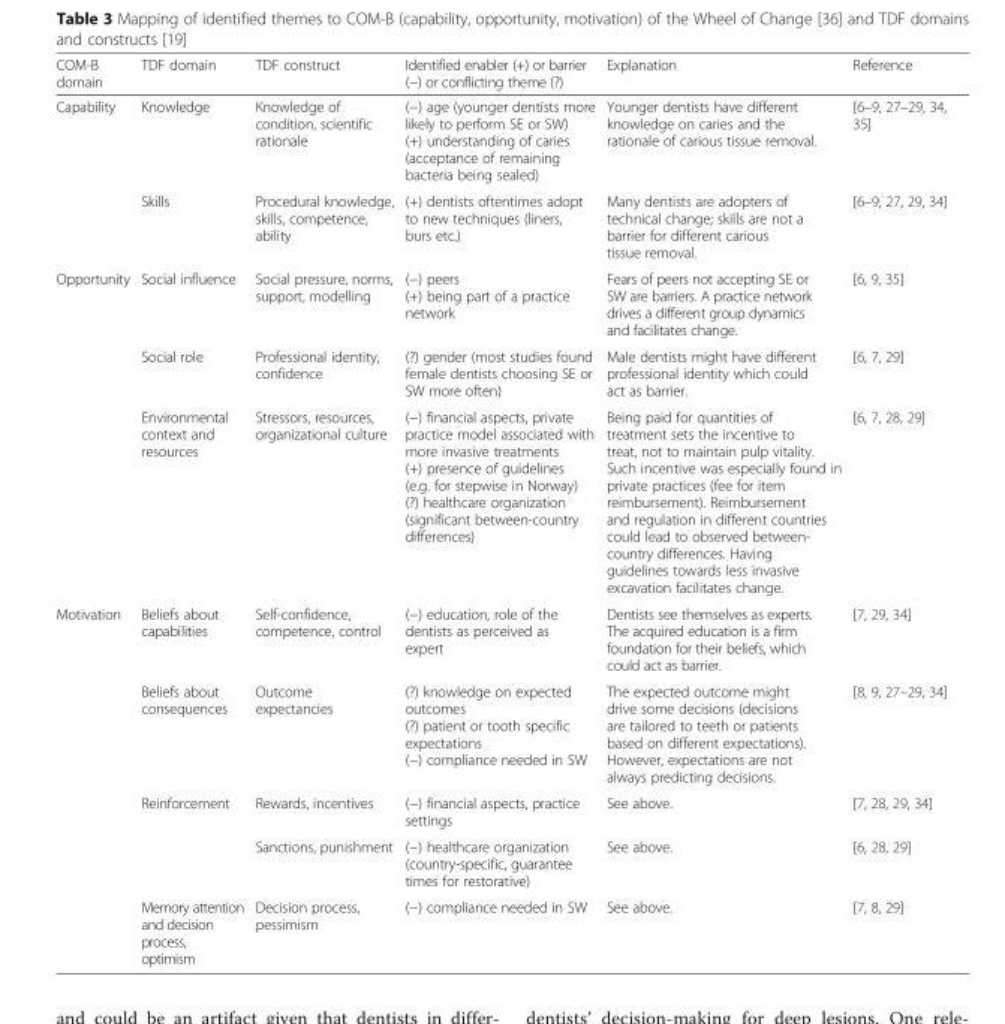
<table><thead><tr><td>COM-B domain</td><td>TDF domain</td><td>TDF construct</td><td>Identified enabler (+) or barrier (−) or conflicting theme (?)</td><td>Explanation</td><td>Reference</td></tr></thead><tbody><tr><td rowspan="2">Capability</td><td>Knowledge</td><td>Knowledge of condition, scientific rationale</td><td>(−) age (younger dentists more likely to perform SE or SW) (+) understanding of caries (acceptance of remaining bacteria being sealed)</td><td>Younger dentists have different knowledge on caries and the rationale of carious tissue removal.</td><td>[6–9, 27–29, 34, 35]</td></tr><tr><td>Skills</td><td>Procedural knowledge, skills, competence, ability</td><td>(+) dentists oftentimes adopt to new techniques (liners, burs etc.)</td><td>Many dentists are adopters of technical change; skills are not a barrier for different carious tissue removal.</td><td>[6–9, 27, 29, 34]</td></tr><tr><td rowspan="3">Opportunity</td><td>Social influence</td><td>Social pressure, norms, support, modelling</td><td>(−) peers (+) being part of a practice network</td><td>Fears of peers not accepting SE or SW are barriers. A practice network drives a different group dynamics and facilitates change.</td><td>[6, 9, 35]</td></tr><tr><td>Social role</td><td>Professional identity, confidence</td><td>(?) gender (most studies found female dentists choosing SE or SW more often)</td><td>Male dentists might have different professional identity which could act as barrier.</td><td>[6, 7, 29]</td></tr><tr><td>Environmental context and resources</td><td>Stressors, resources, organizational culture</td><td>(−) financial aspects, private practice model associated with more invasive treatments (+) presence of guidelines (e.g. for stepwise in Norway) (?) healthcare organization (significant between-country differences)</td><td>Being paid for quantities of treatment sets the incentive to treat, not to maintain pulp vitality. Such incentive was especially found in private practices (fee for item reimbursement). Reimbursement and regulation in different countries could lead to observed between- country differences. Having guidelines towards less invasive excavation facilitates change.</td><td>[6, 7, 28, 29]</td></tr><tr><td rowspan="5">Motivation</td><td>Beliefs about capabilities</td><td>Self-confidence, competence, control</td><td>(−) education, role of the dentists as perceived as expert</td><td>Dentists see themselves as experts. The acquired education is a firm foundation for their beliefs, which could act as barrier.</td><td>[7, 29, 34]</td></tr><tr><td>Beliefs about consequences</td><td>Outcome expectancies</td><td>(?) knowledge on expected outcomes (?) patient or tooth specific expectations (−) compliance needed in SW</td><td>The expected outcome might drive some decisions (decisions are tailored to teeth or patients based on different expectations). However, expectations are not always predicting decisions.</td><td>[8, 9, 27–29, 34]</td></tr><tr><td rowspan="2">Reinforcement</td><td>Rewards, incentives</td><td>(−) financial aspects, practice settings</td><td>See above.</td><td>[7, 28, 29, 34]</td></tr><tr><td>Sanctions, punishment</td><td>(−) healthcare organization (country-specific, guarantee times for restorative)</td><td>See above.</td><td>[6, 28, 29]</td></tr><tr><td>Memory attention and decision process, optimism</td><td>Decision process, pessimism</td><td>(−) compliance needed in SW</td><td>See above.</td><td>[7, 8, 29]</td></tr></tbody></table>